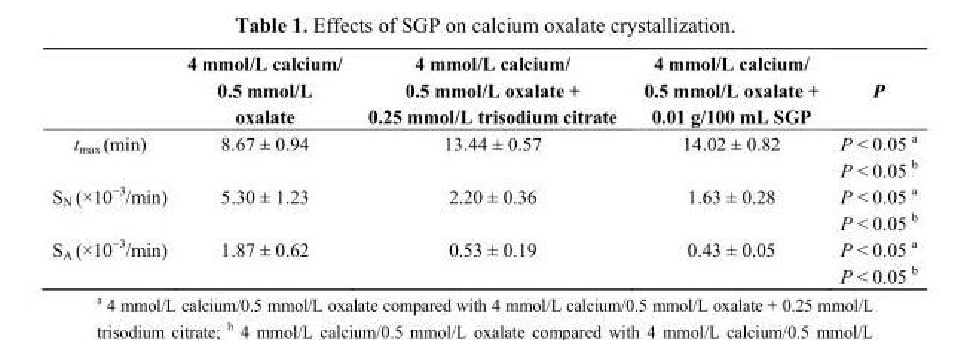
<table><thead><tr><td></td><td>4 mmol/L calcium/ 0.5 mmol/L oxalate</td><td>4 mmol/L calcium/ 0.5 mmol/L oxalate + 0.25 mmol/L trisodium citrate</td><td>4 mmol/L calcium/ 0.5 mmol/L oxalate + 0.01 g/100 mL SGP</td><td>P</td></tr></thead><tbody><tr><td rowspan="2">t<sub>max</sub> (min)</td><td>8.67 ± 0.94</td><td>13.44 ± 0.57</td><td>14.02 ± 0.82</td><td>P &lt; 0.05 <sup>a</sup></td></tr><tr><td></td><td></td><td></td><td>P &lt; 0.05 <sup>b</sup></td></tr><tr><td rowspan="2">S<sub>N</sub> (×10<sup>−3</sup>/min)</td><td>5.30 ± 1.23</td><td>2.20 ± 0.36</td><td>1.63 ± 0.28</td><td>P &lt; 0.05 <sup>a</sup></td></tr><tr><td></td><td></td><td></td><td>P &lt; 0.05 <sup>b</sup></td></tr><tr><td rowspan="2">S<sub>A</sub> (×10<sup>−3</sup>/min)</td><td>1.87 ± 0.62</td><td>0.53 ± 0.19</td><td>0.43 ± 0.05</td><td>P &lt; 0.05 <sup>a</sup></td></tr><tr><td></td><td></td><td></td><td>P &lt; 0.05 <sup>b</sup></td></tr></tbody></table>